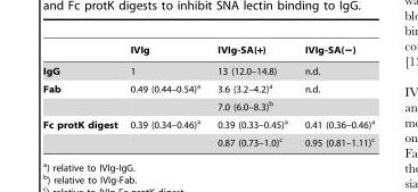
<table><thead><tr><td></td><td>IVIg</td><td>IVIg-SA(+)</td><td>IVIg-SA(−)</td></tr></thead><tbody><tr><td>IgG</td><td>1</td><td>13 (12.0–14.8)</td><td>n.d.</td></tr><tr><td rowspan="2">Fab</td><td>0.49 (0.44–0.54)<sup>a</sup></td><td>3.6 (3.2–4.2)<sup>a</sup></td><td>n.d.</td></tr><tr><td></td><td>7.0 (6.0–8.3)<sup>b</sup></td><td></td></tr><tr><td rowspan="2">Fc protK digest</td><td>0.39 (0.34–0.46)<sup>a</sup></td><td>0.39 (0.33–0.45)<sup>a</sup></td><td>0.41 (0.36–0.46)<sup>a</sup></td></tr><tr><td></td><td>0.87 (0.73–1.0)<sup>c</sup></td><td>0.95 (0.81–1.11)<sup>c</sup></td></tr></tbody></table>